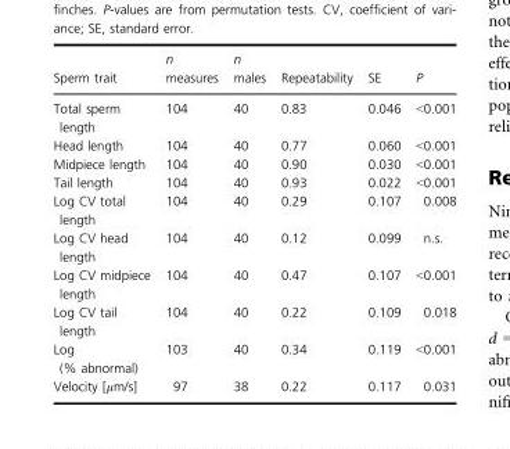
<table><thead><tr><td>Sperm trait</td><td>n measures</td><td>n males</td><td>Repeatability</td><td>SE</td><td>P</td></tr></thead><tbody><tr><td>Total sperm length</td><td>104</td><td>40</td><td>0.83</td><td>0.046</td><td>&lt;0.001</td></tr><tr><td>Head length</td><td>104</td><td>40</td><td>0.77</td><td>0.060</td><td>&lt;0.001</td></tr><tr><td>Midpiece length</td><td>104</td><td>40</td><td>0.90</td><td>0.030</td><td>&lt;0.001</td></tr><tr><td>Tail length</td><td>104</td><td>40</td><td>0.93</td><td>0.022</td><td>&lt;0.001</td></tr><tr><td>Log CV total length</td><td>104</td><td>40</td><td>0.29</td><td>0.107</td><td>0.008</td></tr><tr><td>Log CV head length</td><td>104</td><td>40</td><td>0.12</td><td>0.099</td><td>n.s.</td></tr><tr><td>Log CV midpiece length</td><td>104</td><td>40</td><td>0.47</td><td>0.107</td><td>&lt;0.001</td></tr><tr><td>Log CV tail length</td><td>104</td><td>40</td><td>0.22</td><td>0.109</td><td>0.018</td></tr><tr><td>Log (% abnormal)</td><td>103</td><td>40</td><td>0.34</td><td>0.119</td><td>&lt;0.001</td></tr><tr><td>Velocity [μm/s]</td><td>97</td><td>38</td><td>0.22</td><td>0.117</td><td>0.031</td></tr></tbody></table>